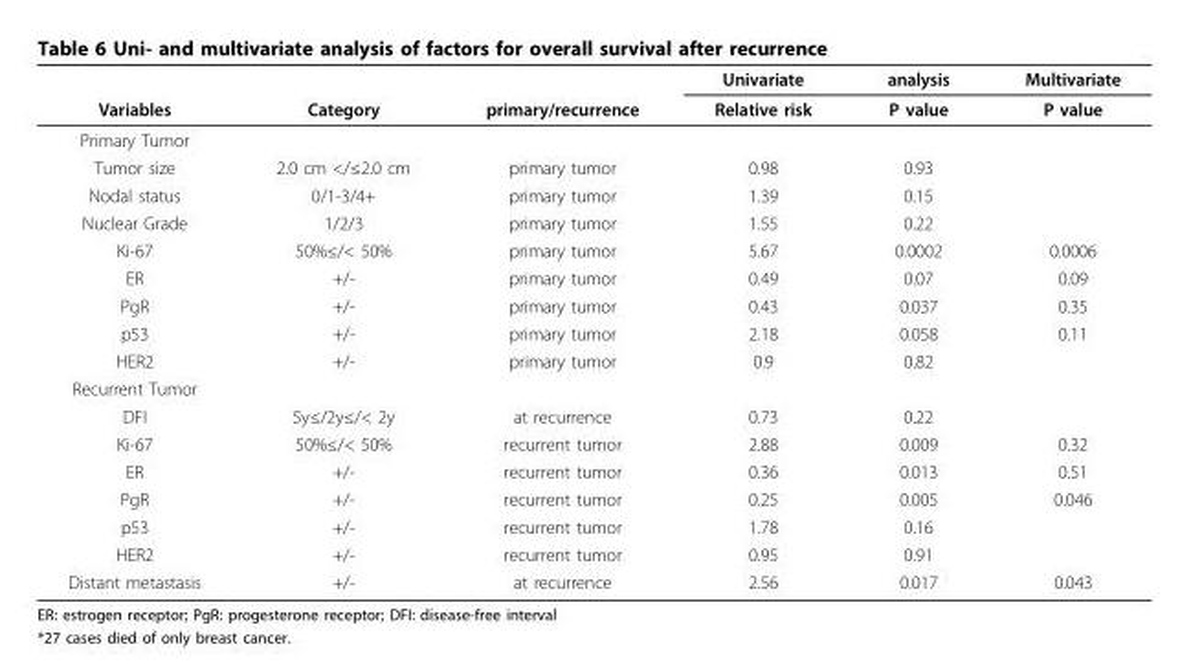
<table><thead><tr><td rowspan="2">Variables</td><td rowspan="2">Category</td><td rowspan="2">primary/recurrence</td><td rowspan="2">Univariate Relative risk</td><td rowspan="2">analysis P value</td><td rowspan="2">Multivariate P value</td></tr><tr></tr></thead><tbody><tr><td colspan="6">Primary Tumor</td></tr><tr><td>Tumor size</td><td>2.0 cm &lt;/≤2.0 cm</td><td>primary tumor</td><td>0.98</td><td>0.93</td><td></td></tr><tr><td>Nodal status</td><td>0/1-3/4+</td><td>primary tumor</td><td>1.39</td><td>0.15</td><td></td></tr><tr><td>Nuclear Grade</td><td>1/2/3</td><td>primary tumor</td><td>1.55</td><td>0.22</td><td></td></tr><tr><td>Ki-67</td><td>50%≤/&lt; 50%</td><td>primary tumor</td><td>5.67</td><td>0.0002</td><td>0.0006</td></tr><tr><td>ER</td><td>+/-</td><td>primary tumor</td><td>0.49</td><td>0.07</td><td>0.09</td></tr><tr><td>PgR</td><td>+/-</td><td>primary tumor</td><td>0.43</td><td>0.037</td><td>0.35</td></tr><tr><td>p53</td><td>+/-</td><td>primary tumor</td><td>2.18</td><td>0.058</td><td>0.11</td></tr><tr><td>HER2</td><td>+/-</td><td>primary tumor</td><td>0.9</td><td>0.82</td><td></td></tr><tr><td colspan="6">Recurrent Tumor</td></tr><tr><td>DFI</td><td>5y≤/2y≤/&lt; 2y</td><td>at recurrence</td><td>0.73</td><td>0.22</td><td></td></tr><tr><td>Ki-67</td><td>50%≤/&lt; 50%</td><td>recurrent tumor</td><td>2.88</td><td>0.009</td><td>0.32</td></tr><tr><td>ER</td><td>+/-</td><td>recurrent tumor</td><td>0.36</td><td>0.013</td><td>0.51</td></tr><tr><td>PgR</td><td>+/-</td><td>recurrent tumor</td><td>0.25</td><td>0.005</td><td>0.046</td></tr><tr><td>p53</td><td>+/-</td><td>recurrent tumor</td><td>1.78</td><td>0.16</td><td></td></tr><tr><td>HER2</td><td>+/-</td><td>recurrent tumor</td><td>0.95</td><td>0.91</td><td></td></tr><tr><td>Distant metastasis</td><td>+/-</td><td>at recurrence</td><td>2.56</td><td>0.017</td><td>0.043</td></tr></tbody></table>